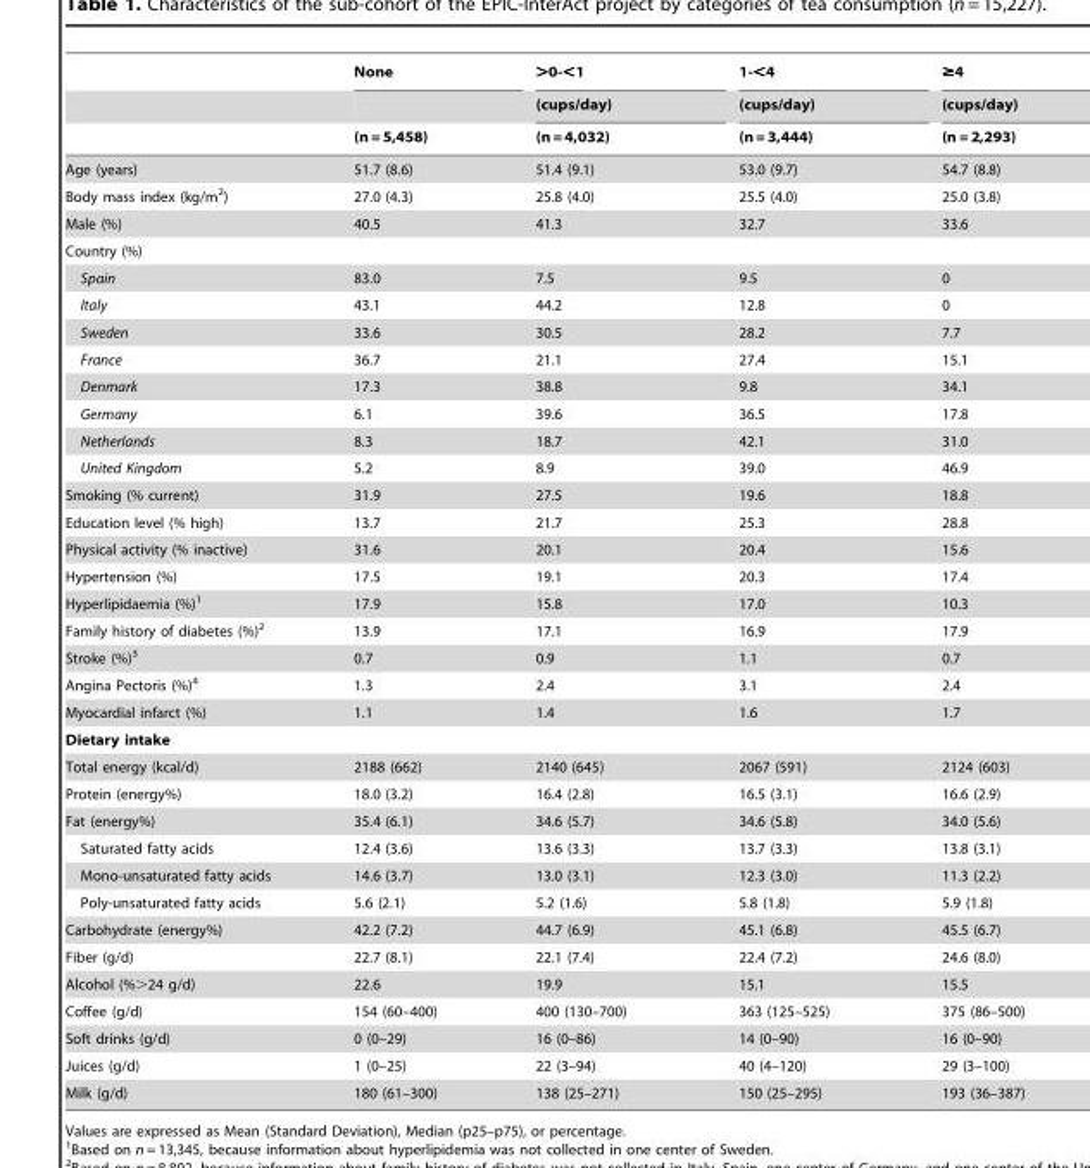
<table><thead><tr><td rowspan="3"></td><td rowspan="3">None (n = 5,458)</td><td rowspan="3">&gt;0-&lt;1 (cups/day) (n = 4,032)</td><td rowspan="3">1-&lt;4 (cups/day) (n = 3,444)</td><td rowspan="3">≥4 (cups/day) (n = 2,293)</td></tr><tr></tr><tr></tr></thead><tbody><tr><td>Age (years)</td><td>51.7 (8.6)</td><td>51.4 (9.1)</td><td>53.0 (9.7)</td><td>54.7 (8.8)</td></tr><tr><td>Body mass index (kg/m<sup>2</sup>)</td><td>27.0 (4.3)</td><td>25.8 (4.0)</td><td>25.5 (4.0)</td><td>25.0 (3.8)</td></tr><tr><td>Male (%)</td><td>40.5</td><td>41.3</td><td>32.7</td><td>33.6</td></tr><tr><td colspan="5">Country (%)</td></tr><tr><td>Spain</td><td>83.0</td><td>7.5</td><td>9.5</td><td>0</td></tr><tr><td>Italy</td><td>43.1</td><td>44.2</td><td>12.8</td><td>0</td></tr><tr><td>Sweden</td><td>33.6</td><td>30.5</td><td>28.2</td><td>7.7</td></tr><tr><td>France</td><td>36.7</td><td>21.1</td><td>27.4</td><td>15.1</td></tr><tr><td>Denmark</td><td>17.3</td><td>38.8</td><td>9.8</td><td>34.1</td></tr><tr><td>Germany</td><td>6.1</td><td>39.6</td><td>36.5</td><td>17.8</td></tr><tr><td>Netherlands</td><td>8.3</td><td>18.7</td><td>42.1</td><td>31.0</td></tr><tr><td>United Kingdom</td><td>5.2</td><td>8.9</td><td>39.0</td><td>46.9</td></tr><tr><td>Smoking (% current)</td><td>31.9</td><td>27.5</td><td>19.6</td><td>18.8</td></tr><tr><td>Education level (% high)</td><td>13.7</td><td>21.7</td><td>25.3</td><td>28.8</td></tr><tr><td>Physical activity (% inactive)</td><td>31.6</td><td>20.1</td><td>20.4</td><td>15.6</td></tr><tr><td>Hypertension (%)</td><td>17.5</td><td>19.1</td><td>20.3</td><td>17.4</td></tr><tr><td>Hyperlipidaemia (%)<sup>1</sup></td><td>17.9</td><td>15.8</td><td>17.0</td><td>10.3</td></tr><tr><td>Family history of diabetes (%)<sup>2</sup></td><td>13.9</td><td>17.1</td><td>16.9</td><td>17.9</td></tr><tr><td>Stroke (%)<sup>3</sup></td><td>0.7</td><td>0.9</td><td>1.1</td><td>0.7</td></tr><tr><td>Angina Pectoris (%)<sup>4</sup></td><td>1.3</td><td>2.4</td><td>3.1</td><td>2.4</td></tr><tr><td>Myocardial infarct (%)</td><td>1.1</td><td>1.4</td><td>1.6</td><td>1.7</td></tr><tr><td colspan="5">Dietary intake</td></tr><tr><td>Total energy (kcal/d)</td><td>2188 (662)</td><td>2140 (645)</td><td>2067 (591)</td><td>2124 (603)</td></tr><tr><td>Protein (energy%)</td><td>18.0 (3.2)</td><td>16.4 (2.8)</td><td>16.5 (3.1)</td><td>16.6 (2.9)</td></tr><tr><td>Fat (energy%)</td><td>35.4 (6.1)</td><td>34.6 (5.7)</td><td>34.6 (5.8)</td><td>34.0 (5.6)</td></tr><tr><td>Saturated fatty acids</td><td>12.4 (3.6)</td><td>13.6 (3.3)</td><td>13.7 (3.3)</td><td>13.8 (3.1)</td></tr><tr><td>Mono-unsaturated fatty acids</td><td>14.6 (3.7)</td><td>13.0 (3.1)</td><td>12.3 (3.0)</td><td>11.3 (2.2)</td></tr><tr><td>Poly-unsaturated fatty acids</td><td>5.6 (2.1)</td><td>5.2 (1.6)</td><td>5.8 (1.8)</td><td>5.9 (1.8)</td></tr><tr><td>Carbohydrate (energy%)</td><td>42.2 (7.2)</td><td>44.7 (6.9)</td><td>45.1 (6.8)</td><td>45.5 (6.7)</td></tr><tr><td>Fiber (g/d)</td><td>22.7 (8.1)</td><td>22.1 (7.4)</td><td>22.4 (7.2)</td><td>24.6 (8.0)</td></tr><tr><td>Alcohol (%&gt;24 g/d)</td><td>22.6</td><td>19.9</td><td>15.1</td><td>15.5</td></tr><tr><td>Coffee (g/d)</td><td>154 (60–400)</td><td>400 (130–700)</td><td>363 (125–525)</td><td>375 (86–500)</td></tr><tr><td>Soft drinks (g/d)</td><td>0 (0–29)</td><td>16 (0–86)</td><td>14 (0–90)</td><td>16 (0–90)</td></tr><tr><td>Juices (g/d)</td><td>1 (0–25)</td><td>22 (3–94)</td><td>40 (4–120)</td><td>29 (3–100)</td></tr><tr><td>Milk (g/d)</td><td>180 (61–300)</td><td>138 (25–271)</td><td>150 (25–295)</td><td>193 (36–387)</td></tr></tbody></table>